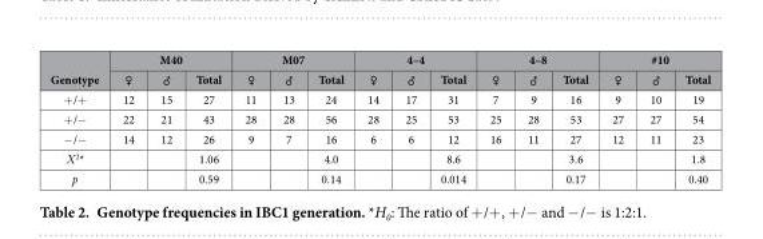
<table><thead><tr><td rowspan="2">Genotype</td><td colspan="3">M40</td><td colspan="3">M07</td><td colspan="3">4–4</td><td colspan="3">4–8</td><td colspan="3">#10</td></tr><tr><td>♀</td><td>♂</td><td>Total</td><td>♀</td><td>♂</td><td>Total</td><td>♀</td><td>♂</td><td>Total</td><td>♀</td><td>♂</td><td>Total</td><td>♀</td><td>♂</td><td>Total</td></tr></thead><tbody><tr><td>+ /+</td><td>12</td><td>15</td><td>27</td><td>11</td><td>13</td><td>24</td><td>14</td><td>17</td><td>31</td><td>7</td><td>9</td><td>16</td><td>9</td><td>10</td><td>19</td></tr><tr><td>+ /−</td><td>22</td><td>21</td><td>43</td><td>28</td><td>28</td><td>56</td><td>28</td><td>25</td><td>53</td><td>25</td><td>28</td><td>53</td><td>27</td><td>27</td><td>54</td></tr><tr><td>− /−</td><td>14</td><td>12</td><td>26</td><td>9</td><td>7</td><td>16</td><td>6</td><td>6</td><td>12</td><td>16</td><td>11</td><td>27</td><td>12</td><td>11</td><td>23</td></tr><tr><td>Χ<sup>2</sup>*</td><td></td><td></td><td>1.06</td><td></td><td></td><td>4.0</td><td></td><td></td><td>8.6</td><td></td><td></td><td>3.6</td><td></td><td></td><td>1.8</td></tr><tr><td>p</td><td></td><td></td><td>0.59</td><td></td><td></td><td>0.14</td><td></td><td></td><td>0.014</td><td></td><td></td><td>0.17</td><td></td><td></td><td>0.40</td></tr></tbody></table>